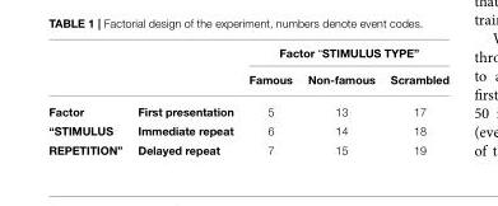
<table><thead><tr><td rowspan="2"></td><td rowspan="2"></td><td colspan="3">Factor “STIMULUS TYPE”</td></tr><tr><td>Famous</td><td>Non-famous</td><td>Scrambled</td></tr></thead><tbody><tr><td>Factor</td><td>First presentation</td><td>5</td><td>13</td><td>17</td></tr><tr><td>“STIMULUS</td><td>Immediate repeat</td><td>6</td><td>14</td><td>18</td></tr><tr><td>REPETITION”</td><td>Delayed repeat</td><td>7</td><td>15</td><td>19</td></tr></tbody></table>